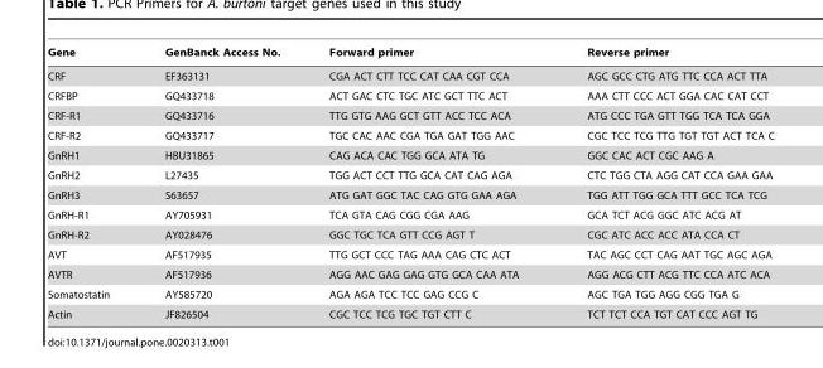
<table><thead><tr><td>Gene</td><td>GenBanck Access No.</td><td>Forward primer</td><td>Reverse primer</td></tr></thead><tbody><tr><td>CRF</td><td>EF363131</td><td>CGA ACT CTT TCC CAT CAA CGT CCA</td><td>AGC GCC CTG ATG TTC CCA ACT TTA</td></tr><tr><td>CRFBP</td><td>GQ433718</td><td>ACT GAC CTC TGC ATC GCT TTC ACT</td><td>AAA CTT CCC ACT GGA CAC CAT CCT</td></tr><tr><td>CRF-R1</td><td>GQ433716</td><td>TTG GTG AAG GCT GTT ACC TCC ACA</td><td>ATG CCC TGA GTT TGG TCA TCA GGA</td></tr><tr><td>CRF-R2</td><td>GQ433717</td><td>TGC CAC AAC CGA TGA GAT TGG AAC</td><td>CGC TCC TCG TTG TGT TGT ACT TCA C</td></tr><tr><td>GnRH1</td><td>HBU31865</td><td>CAG ACA CAC TGG GCA ATA TG</td><td>GGC CAC ACT CGC AAG A</td></tr><tr><td>GnRH2</td><td>L27435</td><td>TGG ACT CCT TTG GCA CAT CAG AGA</td><td>CTC TGG CTA AGG CAT CCA GAA GAA</td></tr><tr><td>GnRH3</td><td>S63657</td><td>ATG GAT GGC TAC CAG GTG GAA AGA</td><td>TGG ATT TGG GCA TTT GCC TCA TCG</td></tr><tr><td>GnRH-R1</td><td>AY705931</td><td>TCA GTA CAG CGG CGA AAG</td><td>GCA TCT ACG GGC ATC ACG AT</td></tr><tr><td>GnRH-R2</td><td>AY028476</td><td>GGC TGC TCA GTT CCG AGT T</td><td>CGC ATC ACC ACC ATA CCA CT</td></tr><tr><td>AVT</td><td>AF517935</td><td>TTG GCT CCC TAG AAA CAG CTC ACT</td><td>TAC AGC CCT CAG AAT TGC AGC AGA</td></tr><tr><td>AVTR</td><td>AF517936</td><td>AGG AAC GAG GAG GTG GCA CAA ATA</td><td>AGG ACG CTT ACG TTC CCA ATC ACA</td></tr><tr><td>Somatostatin</td><td>AY585720</td><td>AGA AGA TCC TCC GAG CCG C</td><td>AGC TGA TGG AGG CGG TGA G</td></tr><tr><td>Actin</td><td>JF826504</td><td>CGC TCC TCG TGC TGT CTT C</td><td>TCT TCT CCA TGT CAT CCC AGT TG</td></tr></tbody></table>